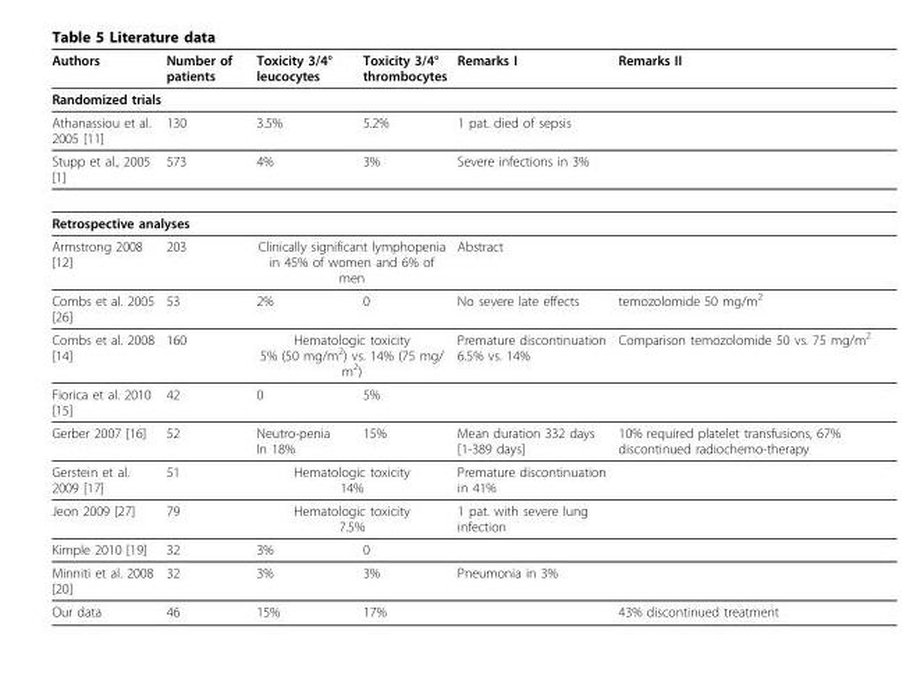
<table><thead><tr><td>Authors</td><td>Number of patients</td><td>Toxicity 3/4° leucocytes</td><td>Toxicity 3/4° thrombocytes</td><td>Remarks I</td><td>Remarks II</td></tr></thead><tbody><tr><td colspan="6">Randomized trials</td></tr><tr><td>Athanassiou et al. 2005 [11]</td><td>130</td><td>3.5%</td><td>5.2%</td><td>1 pat. died of sepsis</td><td></td></tr><tr><td>Stupp et al., 2005 [1]</td><td>573</td><td>4%</td><td>3%</td><td>Severe infections in 3%</td><td></td></tr><tr><td colspan="6">Retrospective analyses</td></tr><tr><td>Armstrong 2008 [12]</td><td>203</td><td colspan="2">Clinically significant lymphopenia in 45% of women and 6% of men</td><td>Abstract</td><td></td></tr><tr><td>Combs et al. 2005 [26]</td><td>53</td><td>2%</td><td>0</td><td>No severe late effects</td><td>temozolomide 50 mg/m2</td></tr><tr><td>Combs et al. 2008 [14]</td><td>160</td><td colspan="2">Hematologic toxicity 5% (50 mg/m2) vs. 14% (75 mg/ m2)</td><td>Premature discontinuation 6.5% vs. 14%</td><td>Comparison temozolomide 50 vs. 75 mg/m2</td></tr><tr><td>Fiorica et al. 2010 [15]</td><td>42</td><td>0</td><td>5%</td><td></td><td></td></tr><tr><td>Gerber 2007 [16]</td><td>52</td><td>Neutro-penia In 18%</td><td>15%</td><td>Mean duration 332 days [1-389 days]</td><td>10% required platelet transfusions, 67% discontinued radiochemo-therapy</td></tr><tr><td>Gerstein et al. 2009 [17]</td><td>51</td><td colspan="2">Hematologic toxicity 14%</td><td>Premature discontinuation in 41%</td><td></td></tr><tr><td>Jeon 2009 [27]</td><td>79</td><td colspan="2">Hematologic toxicity 7.5%</td><td>1 pat. with severe lung infection</td><td></td></tr><tr><td>Kimple 2010 [19]</td><td>32</td><td>3%</td><td>0</td><td></td><td></td></tr><tr><td>Minniti et al. 2008 [20]</td><td>32</td><td>3%</td><td>3%</td><td>Pneumonia in 3%</td><td></td></tr><tr><td>Our data</td><td>46</td><td>15%</td><td>17%</td><td></td><td>43% discontinued treatment</td></tr></tbody></table>